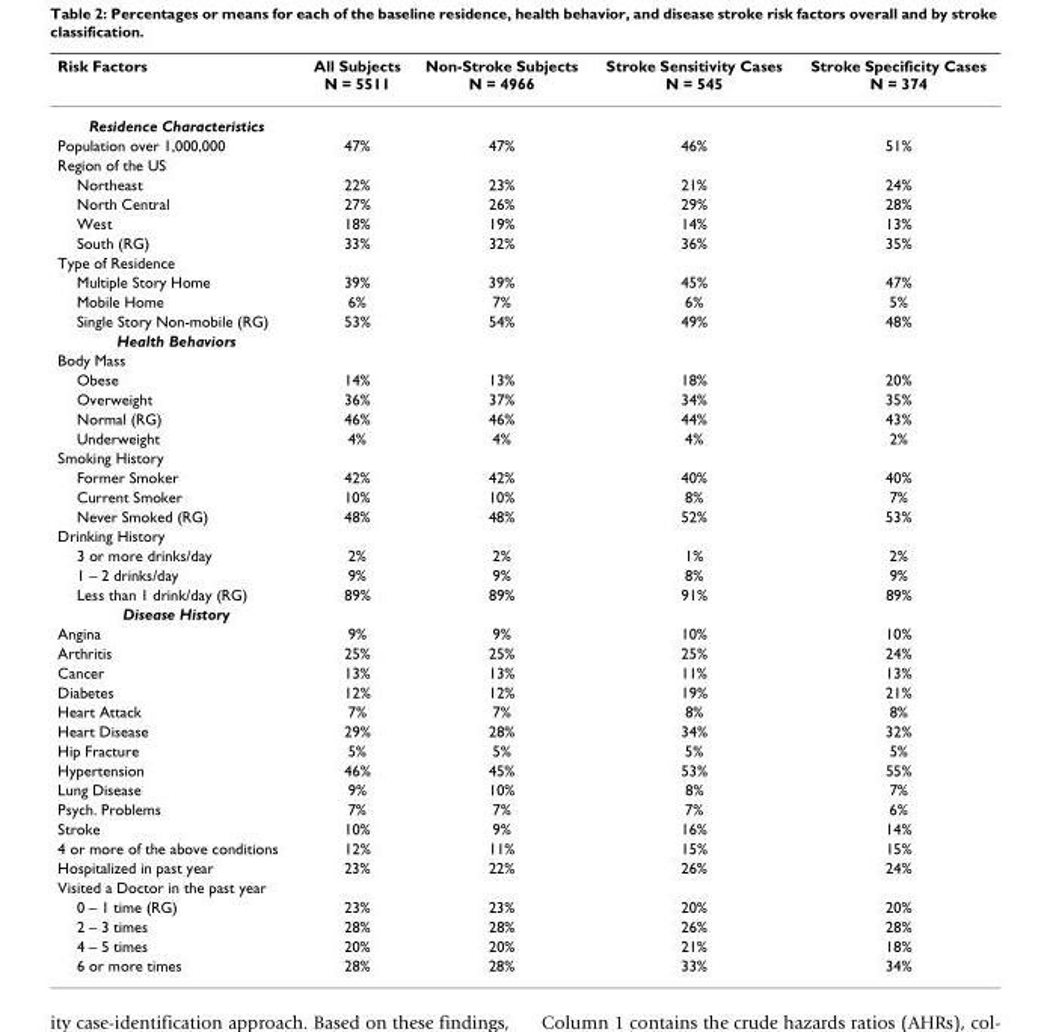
<table><thead><tr><td>Risk Factors</td><td>All Subjects N = 5511</td><td>Non-Stroke Subjects N = 4966</td><td>Stroke Sensitivity Cases N = 545</td><td>Stroke Specificity Cases N = 374</td></tr></thead><tbody><tr><td colspan="5">Residence Characteristics</td></tr><tr><td>Population over 1,000,000</td><td>47%</td><td>47%</td><td>46%</td><td>51%</td></tr><tr><td colspan="5">Region of the US</td></tr><tr><td>Northeast</td><td>22%</td><td>23%</td><td>21%</td><td>24%</td></tr><tr><td>North Central</td><td>27%</td><td>26%</td><td>29%</td><td>28%</td></tr><tr><td>West</td><td>18%</td><td>19%</td><td>14%</td><td>13%</td></tr><tr><td>South (RG)</td><td>33%</td><td>32%</td><td>36%</td><td>35%</td></tr><tr><td colspan="5">Type of Residence</td></tr><tr><td>Multiple Story Home</td><td>39%</td><td>39%</td><td>45%</td><td>47%</td></tr><tr><td>Mobile Home</td><td>6%</td><td>7%</td><td>6%</td><td>5%</td></tr><tr><td>Single Story Non-mobile (RG)</td><td>53%</td><td>54%</td><td>49%</td><td>48%</td></tr><tr><td colspan="5">Health Behaviors</td></tr><tr><td colspan="5">Body Mass</td></tr><tr><td>Obese</td><td>14%</td><td>13%</td><td>18%</td><td>20%</td></tr><tr><td>Overweight</td><td>36%</td><td>37%</td><td>34%</td><td>35%</td></tr><tr><td>Normal (RG)</td><td>46%</td><td>46%</td><td>44%</td><td>43%</td></tr><tr><td>Underweight</td><td>4%</td><td>4%</td><td>4%</td><td>2%</td></tr><tr><td colspan="5">Smoking History</td></tr><tr><td>Former Smoker</td><td>42%</td><td>42%</td><td>40%</td><td>40%</td></tr><tr><td>Current Smoker</td><td>10%</td><td>10%</td><td>8%</td><td>7%</td></tr><tr><td>Never Smoked (RG)</td><td>48%</td><td>48%</td><td>52%</td><td>53%</td></tr><tr><td colspan="5">Drinking History</td></tr><tr><td>3 or more drinks/day</td><td>2%</td><td>2%</td><td>1%</td><td>2%</td></tr><tr><td>1 – 2 drinks/day</td><td>9%</td><td>9%</td><td>8%</td><td>9%</td></tr><tr><td>Less than 1 drink/day (RG)</td><td>89%</td><td>89%</td><td>91%</td><td>89%</td></tr><tr><td colspan="5">Disease History</td></tr><tr><td>Angina</td><td>9%</td><td>9%</td><td>10%</td><td>10%</td></tr><tr><td>Arthritis</td><td>25%</td><td>25%</td><td>25%</td><td>24%</td></tr><tr><td>Cancer</td><td>13%</td><td>13%</td><td>11%</td><td>13%</td></tr><tr><td>Diabetes</td><td>12%</td><td>12%</td><td>19%</td><td>21%</td></tr><tr><td>Heart Attack</td><td>7%</td><td>7%</td><td>8%</td><td>8%</td></tr><tr><td>Heart Disease</td><td>29%</td><td>28%</td><td>34%</td><td>32%</td></tr><tr><td>Hip Fracture</td><td>5%</td><td>5%</td><td>5%</td><td>5%</td></tr><tr><td>Hypertension</td><td>46%</td><td>45%</td><td>53%</td><td>55%</td></tr><tr><td>Lung Disease</td><td>9%</td><td>10%</td><td>8%</td><td>7%</td></tr><tr><td>Psych. Problems</td><td>7%</td><td>7%</td><td>7%</td><td>6%</td></tr><tr><td>Stroke</td><td>10%</td><td>9%</td><td>16%</td><td>14%</td></tr><tr><td>4 or more of the above conditions</td><td>12%</td><td>11%</td><td>15%</td><td>15%</td></tr><tr><td>Hospitalized in past year</td><td>23%</td><td>22%</td><td>26%</td><td>24%</td></tr><tr><td colspan="5">Visited a Doctor in the past year</td></tr><tr><td>0 – 1 time (RG)</td><td>23%</td><td>23%</td><td>20%</td><td>20%</td></tr><tr><td>2 – 3 times</td><td>28%</td><td>28%</td><td>26%</td><td>28%</td></tr><tr><td>4 – 5 times</td><td>20%</td><td>20%</td><td>21%</td><td>18%</td></tr><tr><td>6 or more times</td><td>28%</td><td>28%</td><td>33%</td><td>34%</td></tr></tbody></table>